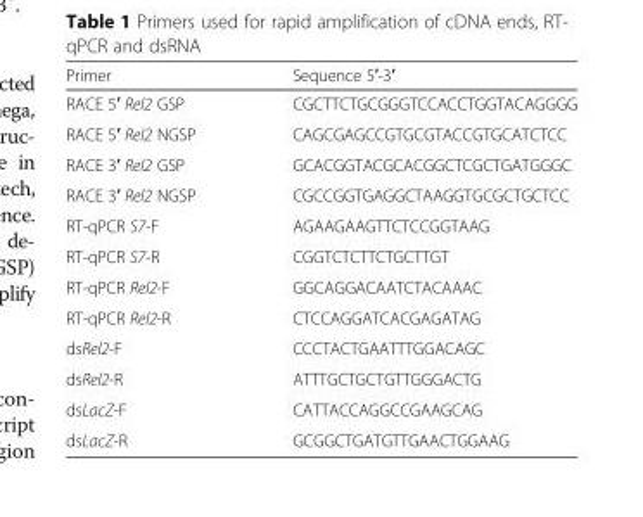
<table><thead><tr><td>Primer</td><td>Sequence 5′-3′</td></tr></thead><tbody><tr><td>RACE 5′ Rel2 GSP</td><td>CGCTTCTGCGGGTCCACCTGGTACAGGGG</td></tr><tr><td>RACE 5′ Rel2 NGSP</td><td>CAGCGAGCCGTGCGTACCGTGCATCTCC</td></tr><tr><td>RACE 3′ Rel2 GSP</td><td>GCACGGTACGCACGGCTCGCTGATGGGC</td></tr><tr><td>RACE 3′ Rel2 NGSP</td><td>CGCCGGTGAGGCTAAGGTGCGCTGCTCC</td></tr><tr><td>RT-qPCR S7-F</td><td>AGAAGAAGTTCTCCGGTAAG</td></tr><tr><td>RT-qPCR S7-R</td><td>CGGTCTCTTCTGCTTGT</td></tr><tr><td>RT-qPCR Rel2-F</td><td>GGCAGGACAATCTACAAAC</td></tr><tr><td>RT-qPCR Rel2-R</td><td>CTCCAGGATCACGAGATAG</td></tr><tr><td>dsRel2-F</td><td>CCCTACTGAATTTGGACAGC</td></tr><tr><td>dsRel2-R</td><td>ATTTGCTGCTGTTGGGACTG</td></tr><tr><td>dsLacZ-F</td><td>CATTACCAGGCCGAAGCAG</td></tr><tr><td>dsLacZ-R</td><td>GCGGCTGATGTTGAACTGGAAG</td></tr></tbody></table>